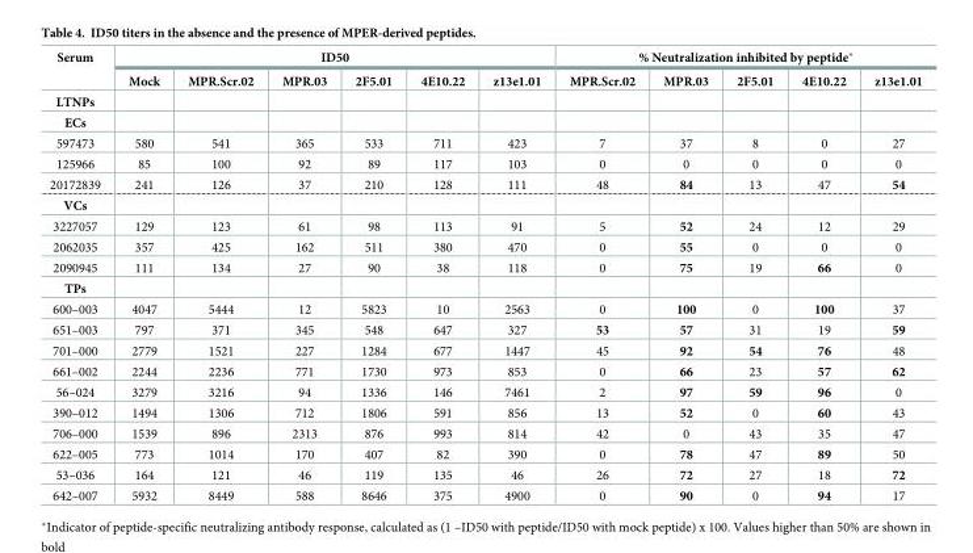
<table><thead><tr><td rowspan="2">Serum</td><td colspan="6">ID50</td><td colspan="5">% Neutralization inhibited by peptide*</td></tr><tr><td>Mock</td><td>MPR.Scr.02</td><td>MPR.03</td><td>2F5.01</td><td>4E10.22</td><td>z13e1.01</td><td>MPR.Scr.02</td><td>MPR.03</td><td>2F5.01</td><td>4E10.22</td><td>z13e1.01</td></tr></thead><tbody><tr><td colspan="12">LTNPs</td></tr><tr><td colspan="12">ECs</td></tr><tr><td>597473</td><td>580</td><td>541</td><td>365</td><td>533</td><td>711</td><td>423</td><td>7</td><td>37</td><td>8</td><td>0</td><td>27</td></tr><tr><td>125966</td><td>85</td><td>100</td><td>92</td><td>89</td><td>117</td><td>103</td><td>0</td><td>0</td><td>0</td><td>0</td><td>0</td></tr><tr><td>20172839</td><td>241</td><td>126</td><td>37</td><td>210</td><td>128</td><td>111</td><td>48</td><td>84</td><td>13</td><td>47</td><td>54</td></tr><tr><td colspan="12">VCs</td></tr><tr><td>3227057</td><td>129</td><td>123</td><td>61</td><td>98</td><td>113</td><td>91</td><td>5</td><td>52</td><td>24</td><td>12</td><td>29</td></tr><tr><td>2062035</td><td>357</td><td>425</td><td>162</td><td>511</td><td>380</td><td>470</td><td>0</td><td>55</td><td>0</td><td>0</td><td>0</td></tr><tr><td>2090945</td><td>111</td><td>134</td><td>27</td><td>90</td><td>38</td><td>118</td><td>0</td><td>75</td><td>19</td><td>66</td><td>0</td></tr><tr><td colspan="12">TPs</td></tr><tr><td>600–003</td><td>4047</td><td>5444</td><td>12</td><td>5823</td><td>10</td><td>2563</td><td>0</td><td>100</td><td>0</td><td>100</td><td>37</td></tr><tr><td>651–003</td><td>797</td><td>371</td><td>345</td><td>548</td><td>647</td><td>327</td><td>53</td><td>57</td><td>31</td><td>19</td><td>59</td></tr><tr><td>701–000</td><td>2779</td><td>1521</td><td>227</td><td>1284</td><td>677</td><td>1447</td><td>45</td><td>92</td><td>54</td><td>76</td><td>48</td></tr><tr><td>661–002</td><td>2244</td><td>2236</td><td>771</td><td>1730</td><td>973</td><td>853</td><td>0</td><td>66</td><td>23</td><td>57</td><td>62</td></tr><tr><td>56–024</td><td>3279</td><td>3216</td><td>94</td><td>1336</td><td>146</td><td>7461</td><td>2</td><td>97</td><td>59</td><td>96</td><td>0</td></tr><tr><td>390–012</td><td>1494</td><td>1306</td><td>712</td><td>1806</td><td>591</td><td>856</td><td>13</td><td>52</td><td>0</td><td>60</td><td>43</td></tr><tr><td>706–000</td><td>1539</td><td>896</td><td>2313</td><td>876</td><td>993</td><td>814</td><td>42</td><td>0</td><td>43</td><td>35</td><td>47</td></tr><tr><td>622–005</td><td>773</td><td>1014</td><td>170</td><td>407</td><td>82</td><td>390</td><td>0</td><td>78</td><td>47</td><td>89</td><td>50</td></tr><tr><td>53–036</td><td>164</td><td>121</td><td>46</td><td>119</td><td>135</td><td>46</td><td>26</td><td>72</td><td>27</td><td>18</td><td>72</td></tr><tr><td>642–007</td><td>5932</td><td>8449</td><td>588</td><td>8646</td><td>375</td><td>4900</td><td>0</td><td>90</td><td>0</td><td>94</td><td>17</td></tr></tbody></table>